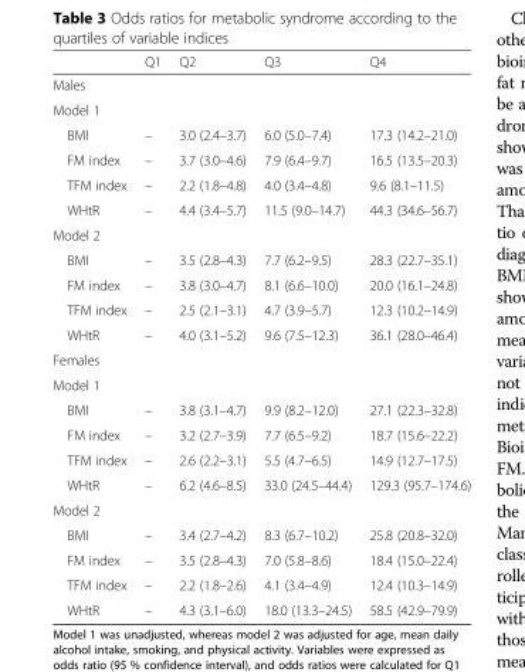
<table><thead><tr><td></td><td>Q1</td><td>Q2</td><td>Q3</td><td>Q4</td></tr></thead><tbody><tr><td colspan="5">Males</td></tr><tr><td colspan="5">Model 1</td></tr><tr><td>BMI</td><td>–</td><td>3.0 (2.4–3.7)</td><td>6.0 (5.0–7.4)</td><td>17.3 (14.2–21.0)</td></tr><tr><td>FM index</td><td>–</td><td>3.7 (3.0–4.6)</td><td>7.9 (6.4–9.7)</td><td>16.5 (13.5–20.3)</td></tr><tr><td>TFM index</td><td>–</td><td>2.2 (1.8–4.8)</td><td>4.0 (3.4–4.8)</td><td>9.6 (8.1–11.5)</td></tr><tr><td>WHtR</td><td>–</td><td>4.4 (3.4–5.7)</td><td>11.5 (9.0–14.7)</td><td>44.3 (34.6–56.7)</td></tr><tr><td colspan="5">Model 2</td></tr><tr><td>BMI</td><td>–</td><td>3.5 (2.8–4.3)</td><td>7.7 (6.2–9.5)</td><td>28.3 (22.7–35.1)</td></tr><tr><td>FM index</td><td>–</td><td>3.8 (3.0–4.7)</td><td>8.1 (6.6–10.0)</td><td>20.0 (16.1–24.8)</td></tr><tr><td>TFM index</td><td>–</td><td>2.5 (2.1–3.1)</td><td>4.7 (3.9–5.7)</td><td>12.3 (10.2–14.9)</td></tr><tr><td>WHtR</td><td>–</td><td>4.0 (3.1–5.2)</td><td>9.6 (7.5–12.3)</td><td>36.1 (28.0–46.4)</td></tr><tr><td colspan="5">Females</td></tr><tr><td colspan="5">Model 1</td></tr><tr><td>BMI</td><td>–</td><td>3.8 (3.1–4.7)</td><td>9.9 (8.2–12.0)</td><td>27.1 (22.3–32.8)</td></tr><tr><td>FM index</td><td>–</td><td>3.2 (2.7–3.9)</td><td>7.7 (6.5–9.2)</td><td>18.7 (15.6–22.2)</td></tr><tr><td>TFM index</td><td>–</td><td>2.6 (2.2–3.1)</td><td>5.5 (4.7–6.5)</td><td>14.9 (12.7–17.5)</td></tr><tr><td>WHtR</td><td>–</td><td>6.2 (4.6–8.5)</td><td>33.0 (24.5–44.4)</td><td>129.3 (95.7–174.6)</td></tr><tr><td colspan="5">Model 2</td></tr><tr><td>BMI</td><td>–</td><td>3.4 (2.7–4.2)</td><td>8.3 (6.7–10.2)</td><td>25.8 (20.8–32.0)</td></tr><tr><td>FM index</td><td>–</td><td>3.5 (2.8–4.3)</td><td>7.0 (5.8–8.6)</td><td>18.4 (15.0–22.4)</td></tr><tr><td>TFM index</td><td>–</td><td>2.2 (1.8–2.6)</td><td>4.1 (3.4–4.9)</td><td>12.4 (10.3–14.9)</td></tr><tr><td>WHtR</td><td>–</td><td>4.3 (3.1–6.0)</td><td>18.0 (13.3–24.5)</td><td>58.5 (42.9–79.9)</td></tr></tbody></table>